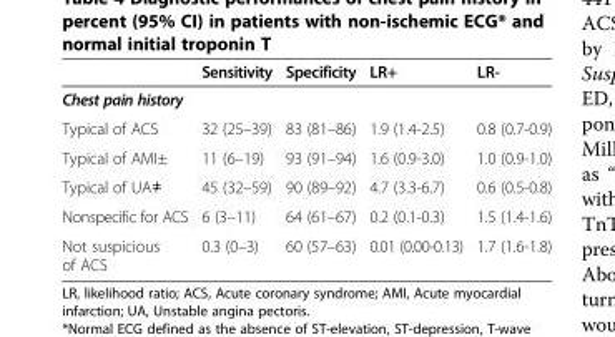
<table><thead><tr><td></td><td>Sensitivity</td><td>Specificity</td><td>LR+</td><td>LR-</td></tr></thead><tbody><tr><td colspan="5">Chest pain history</td></tr><tr><td>Typical of ACS</td><td>32 (25–39)</td><td>83 (81–86)</td><td>1.9 (1.4-2.5)</td><td>0.8 (0.7-0.9)</td></tr><tr><td>Typical of AMI±</td><td>11 (6–19)</td><td>93 (91–94)</td><td>1.6 (0.9-3.0)</td><td>1.0 (0.9-1.0)</td></tr><tr><td>Typical of UA≠</td><td>45 (32–59)</td><td>90 (89–92)</td><td>4.7 (3.3-6.7)</td><td>0.6 (0.5-0.8)</td></tr><tr><td>Nonspecific for ACS</td><td>6 (3–11)</td><td>64 (61–67)</td><td>0.2 (0.1-0.3)</td><td>1.5 (1.4-1.6)</td></tr><tr><td>Not suspicious of ACS</td><td>0.3 (0–3)</td><td>60 (57–63)</td><td>0.01 (0.00-0.13)</td><td>1.7 (1.6-1.8)</td></tr></tbody></table>